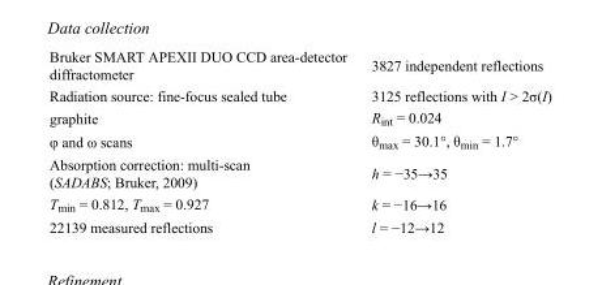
<table><tbody><tr><td>Bruker SMART APEXII DUO CCD area-detector diffractometer</td><td>3827 independent reflections</td></tr><tr><td>Radiation source: fine-focus sealed tube</td><td>3125 reflections with I &gt; 2σ(I)</td></tr><tr><td>graphite</td><td>R<sub>int</sub> = 0.024</td></tr><tr><td>φ and ω scans</td><td>θ<sub>max</sub> = 30.1°, θ<sub>min</sub> = 1.7°</td></tr><tr><td>Absorption correction: multi-scan (SADABS; Bruker, 2009)</td><td>h = −35→35</td></tr><tr><td>T<sub>min</sub> = 0.812, T<sub>max</sub> = 0.927</td><td>k = −16→16</td></tr><tr><td>22139 measured reflections</td><td>l = −12→12</td></tr></tbody></table>